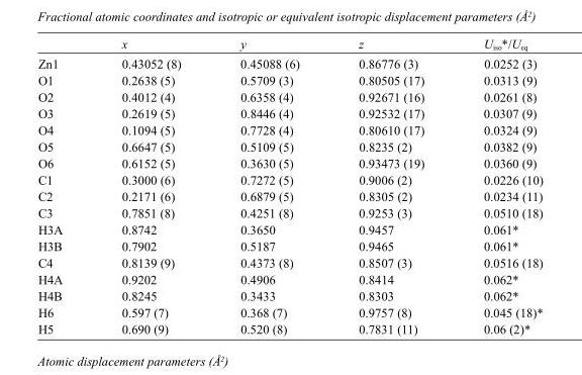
<table><thead><tr><td></td><td>x</td><td>y</td><td>z</td><td>U<sub>iso</sub>*/U<sub>eq</sub></td></tr></thead><tbody><tr><td>Zn1</td><td>0.43052 (8)</td><td>0.45088 (6)</td><td>0.86776 (3)</td><td>0.0252 (3)</td></tr><tr><td>O1</td><td>0.2638 (5)</td><td>0.5709 (3)</td><td>0.80505 (17)</td><td>0.0313 (9)</td></tr><tr><td>O2</td><td>0.4012 (4)</td><td>0.6358 (4)</td><td>0.92671 (16)</td><td>0.0261 (8)</td></tr><tr><td>O3</td><td>0.2619 (5)</td><td>0.8446 (4)</td><td>0.92532 (17)</td><td>0.0307 (9)</td></tr><tr><td>O4</td><td>0.1094 (5)</td><td>0.7728 (4)</td><td>0.80610 (17)</td><td>0.0324 (9)</td></tr><tr><td>O5</td><td>0.6647 (5)</td><td>0.5109 (5)</td><td>0.8235 (2)</td><td>0.0382 (9)</td></tr><tr><td>O6</td><td>0.6152 (5)</td><td>0.3630 (5)</td><td>0.93473 (19)</td><td>0.0360 (9)</td></tr><tr><td>C1</td><td>0.3000 (6)</td><td>0.7272 (5)</td><td>0.9006 (2)</td><td>0.0226 (10)</td></tr><tr><td>C2</td><td>0.2171 (6)</td><td>0.6879 (5)</td><td>0.8305 (2)</td><td>0.0234 (11)</td></tr><tr><td>C3</td><td>0.7851 (8)</td><td>0.4251 (8)</td><td>0.9253 (3)</td><td>0.0510 (18)</td></tr><tr><td>H3A</td><td>0.8742</td><td>0.3650</td><td>0.9457</td><td>0.061*</td></tr><tr><td>H3B</td><td>0.7902</td><td>0.5187</td><td>0.9465</td><td>0.061*</td></tr><tr><td>C4</td><td>0.8139 (9)</td><td>0.4373 (8)</td><td>0.8507 (3)</td><td>0.0516 (18)</td></tr><tr><td>H4A</td><td>0.9202</td><td>0.4906</td><td>0.8414</td><td>0.062*</td></tr><tr><td>H4B</td><td>0.8245</td><td>0.3433</td><td>0.8303</td><td>0.062*</td></tr><tr><td>H6</td><td>0.597 (7)</td><td>0.368 (7)</td><td>0.9757 (8)</td><td>0.045 (18)*</td></tr><tr><td>H5</td><td>0.690 (9)</td><td>0.520 (8)</td><td>0.7831 (11)</td><td>0.06 (2)*</td></tr></tbody></table>